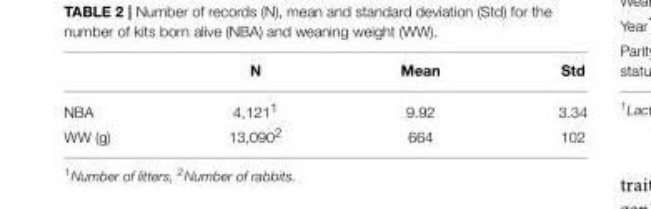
<table><thead><tr><td></td><td>N</td><td>Mean</td><td>Std</td></tr></thead><tbody><tr><td>NBA</td><td>4,121<sup>1</sup></td><td>9.92</td><td>3.34</td></tr><tr><td>WW (g)</td><td>13,090<sup>2</sup></td><td>664</td><td>102</td></tr></tbody></table>